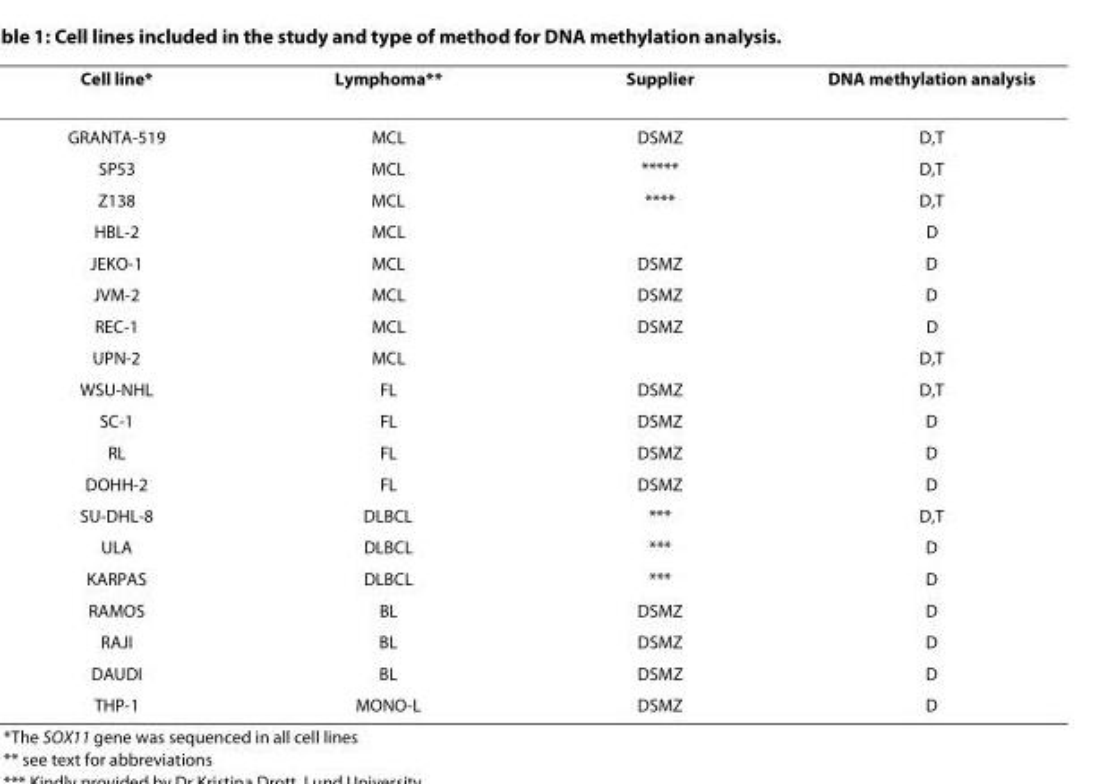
<table><thead><tr><td>Cell line*</td><td>Lymphoma**</td><td>Supplier</td><td>DNA methylation analysis</td></tr></thead><tbody><tr><td>GRANTA-519</td><td>MCL</td><td>DSMZ</td><td>D,T</td></tr><tr><td>SP53</td><td>MCL</td><td>*****</td><td>D,T</td></tr><tr><td>Z138</td><td>MCL</td><td>****</td><td>D,T</td></tr><tr><td>HBL-2</td><td>MCL</td><td></td><td>D</td></tr><tr><td>JEKO-1</td><td>MCL</td><td>DSMZ</td><td>D</td></tr><tr><td>JVM-2</td><td>MCL</td><td>DSMZ</td><td>D</td></tr><tr><td>REC-1</td><td>MCL</td><td>DSMZ</td><td>D</td></tr><tr><td>UPN-2</td><td>MCL</td><td></td><td>D,T</td></tr><tr><td>WSU-NHL</td><td>FL</td><td>DSMZ</td><td>D,T</td></tr><tr><td>SC-1</td><td>FL</td><td>DSMZ</td><td>D</td></tr><tr><td>RL</td><td>FL</td><td>DSMZ</td><td>D</td></tr><tr><td>DOHH-2</td><td>FL</td><td>DSMZ</td><td>D</td></tr><tr><td>SU-DHL-8</td><td>DLBCL</td><td>***</td><td>D,T</td></tr><tr><td>ULA</td><td>DLBCL</td><td>***</td><td>D</td></tr><tr><td>KARPAS</td><td>DLBCL</td><td>***</td><td>D</td></tr><tr><td>RAMOS</td><td>BL</td><td>DSMZ</td><td>D</td></tr><tr><td>RAJI</td><td>BL</td><td>DSMZ</td><td>D</td></tr><tr><td>DAUDI</td><td>BL</td><td>DSMZ</td><td>D</td></tr><tr><td>THP-1</td><td>MONO-L</td><td>DSMZ</td><td>D</td></tr></tbody></table>